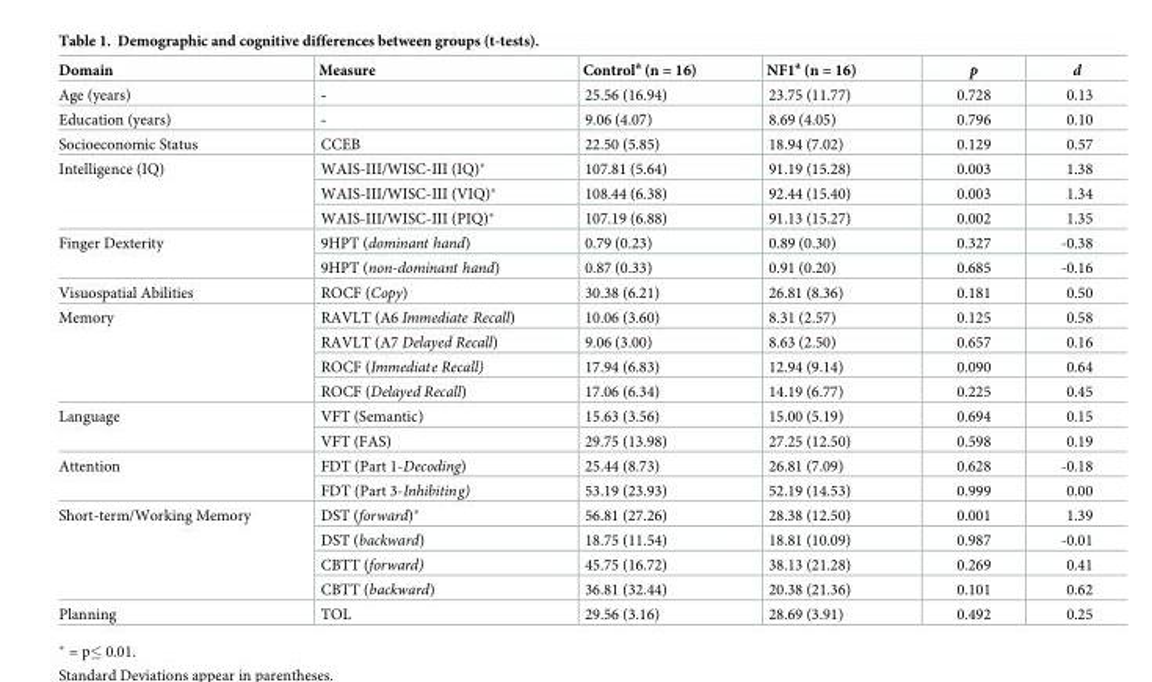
<table><thead><tr><td>Domain</td><td>Measure</td><td>Control<sup>a</sup> (n = 16)</td><td>NF1<sup>a</sup> (n = 16)</td><td>p</td><td>d</td></tr></thead><tbody><tr><td>Age (years)</td><td>-</td><td>25.56 (16.94)</td><td>23.75 (11.77)</td><td>0.728</td><td>0.13</td></tr><tr><td>Education (years)</td><td>-</td><td>9.06 (4.07)</td><td>8.69 (4.05)</td><td>0.796</td><td>0.10</td></tr><tr><td>Socioeconomic Status</td><td>CCEB</td><td>22.50 (5.85)</td><td>18.94 (7.02)</td><td>0.129</td><td>0.57</td></tr><tr><td rowspan="3">Intelligence (IQ)</td><td>WAIS-III/WISC-III (IQ)*</td><td>107.81 (5.64)</td><td>91.19 (15.28)</td><td>0.003</td><td>1.38</td></tr><tr><td>WAIS-III/WISC-III (VIQ)*</td><td>108.44 (6.38)</td><td>92.44 (15.40)</td><td>0.003</td><td>1.34</td></tr><tr><td>WAIS-III/WISC-III (PIQ)*</td><td>107.19 (6.88)</td><td>91.13 (15.27)</td><td>0.002</td><td>1.35</td></tr><tr><td rowspan="2">Finger Dexterity</td><td>9HPT (dominant hand)</td><td>0.79 (0.23)</td><td>0.89 (0.30)</td><td>0.327</td><td>-0.38</td></tr><tr><td>9HPT (non-dominant hand)</td><td>0.87 (0.33)</td><td>0.91 (0.20)</td><td>0.685</td><td>-0.16</td></tr><tr><td>Visuospatial Abilities</td><td>ROCF (Copy)</td><td>30.38 (6.21)</td><td>26.81 (8.36)</td><td>0.181</td><td>0.50</td></tr><tr><td rowspan="4">Memory</td><td>RAVLT (A6 Immediate Recall)</td><td>10.06 (3.60)</td><td>8.31 (2.57)</td><td>0.125</td><td>0.58</td></tr><tr><td>RAVLT (A7 Delayed Recall)</td><td>9.06 (3.00)</td><td>8.63 (2.50)</td><td>0.657</td><td>0.16</td></tr><tr><td>ROCF (Immediate Recall)</td><td>17.94 (6.83)</td><td>12.94 (9.14)</td><td>0.090</td><td>0.64</td></tr><tr><td>ROCF (Delayed Recall)</td><td>17.06 (6.34)</td><td>14.19 (6.77)</td><td>0.225</td><td>0.45</td></tr><tr><td rowspan="2">Language</td><td>VFT (Semantic)</td><td>15.63 (3.56)</td><td>15.00 (5.19)</td><td>0.694</td><td>0.15</td></tr><tr><td>VFT (FAS)</td><td>29.75 (13.98)</td><td>27.25 (12.50)</td><td>0.598</td><td>0.19</td></tr><tr><td rowspan="2">Attention</td><td>FDT (Part 1-Decoding)</td><td>25.44 (8.73)</td><td>26.81 (7.09)</td><td>0.628</td><td>-0.18</td></tr><tr><td>FDT (Part 3-Inhibiting)</td><td>53.19 (23.93)</td><td>52.19 (14.53)</td><td>0.999</td><td>0.00</td></tr><tr><td rowspan="4">Short-term/Working Memory</td><td>DST (forward)*</td><td>56.81 (27.26)</td><td>28.38 (12.50)</td><td>0.001</td><td>1.39</td></tr><tr><td>DST (backward)</td><td>18.75 (11.54)</td><td>18.81 (10.09)</td><td>0.987</td><td>-0.01</td></tr><tr><td>CBTT (forward)</td><td>45.75 (16.72)</td><td>38.13 (21.28)</td><td>0.269</td><td>0.41</td></tr><tr><td>CBTT (backward)</td><td>36.81 (32.44)</td><td>20.38 (21.36)</td><td>0.101</td><td>0.62</td></tr><tr><td>Planning</td><td>TOL</td><td>29.56 (3.16)</td><td>28.69 (3.91)</td><td>0.492</td><td>0.25</td></tr></tbody></table>